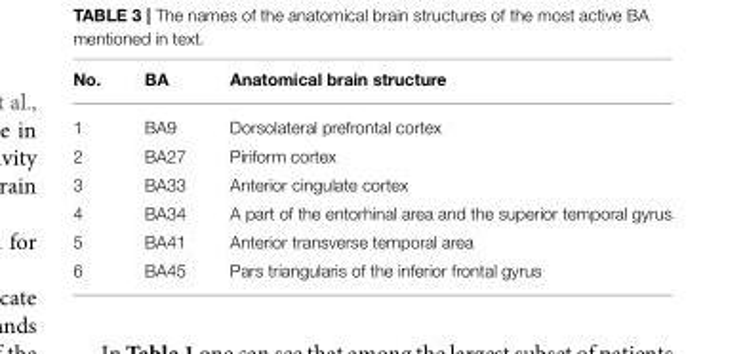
<table><thead><tr><td>No.</td><td>BA</td><td>Anatomical brain structure</td></tr></thead><tbody><tr><td>1</td><td>BA9</td><td>Dorsolateral prefrontal cortex</td></tr><tr><td>2</td><td>BA27</td><td>Piriform cortex</td></tr><tr><td>3</td><td>BA33</td><td>Anterior cingulate cortex</td></tr><tr><td>4</td><td>BA34</td><td>A part of the entorhinal area and the superior temporal gyrus</td></tr><tr><td>5</td><td>BA41</td><td>Anterior transverse temporal area</td></tr><tr><td>6</td><td>BA45</td><td>Pars triangularis of the inferior frontal gyrus</td></tr></tbody></table>